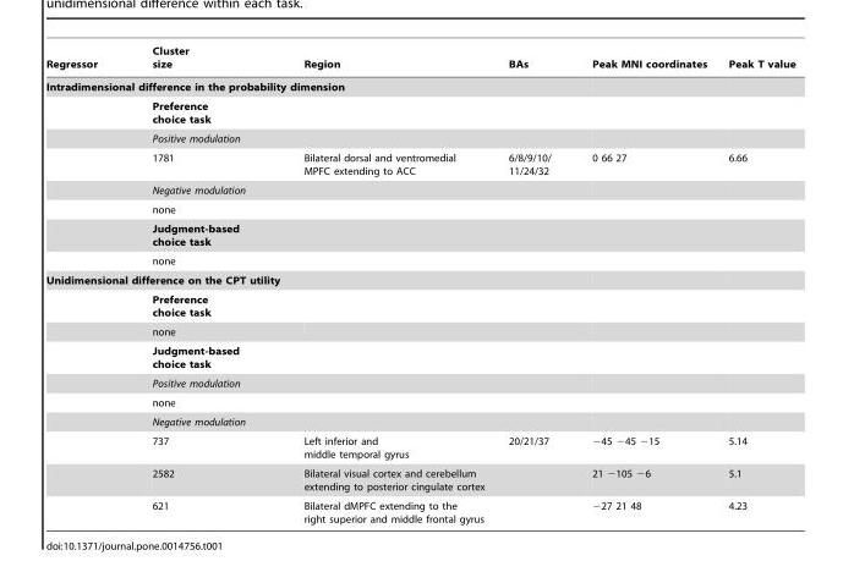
<table><thead><tr><td>Regressor</td><td>Cluster size</td><td>Region</td><td>BAs</td><td>Peak MNI coordinates</td><td>Peak T value</td></tr></thead><tbody><tr><td colspan="6">Intradimensional difference in the probability dimension</td></tr><tr><td></td><td colspan="5">Preference choice task</td></tr><tr><td></td><td colspan="2">Positive modulation</td><td></td><td></td><td></td></tr><tr><td></td><td>1781</td><td>Bilateral dorsal and ventromedial MPFC extending to ACC</td><td>6/8/9/10/ 11/24/32</td><td>0 66 27</td><td>6.66</td></tr><tr><td></td><td colspan="2">Negative modulation</td><td></td><td></td><td></td></tr><tr><td></td><td>none</td><td></td><td></td><td></td><td></td></tr><tr><td></td><td colspan="5">Judgment-based choice task</td></tr><tr><td></td><td>none</td><td></td><td></td><td></td><td></td></tr><tr><td colspan="6">Unidimensional difference on the CPT utility</td></tr><tr><td></td><td colspan="5">Preference choice task</td></tr><tr><td></td><td>none</td><td></td><td></td><td></td><td></td></tr><tr><td></td><td colspan="5">Judgment-based choice task</td></tr><tr><td></td><td colspan="2">Positive modulation</td><td></td><td></td><td></td></tr><tr><td></td><td>none</td><td></td><td></td><td></td><td></td></tr><tr><td></td><td colspan="2">Negative modulation</td><td></td><td></td><td></td></tr><tr><td></td><td>737</td><td>Left inferior and middle temporal gyrus</td><td>20/21/37</td><td>−45 −45 −15</td><td>5.14</td></tr><tr><td></td><td>2582</td><td>Bilateral visual cortex and cerebellum extending to posterior cingulate cortex</td><td></td><td>21 −105 −6</td><td>5.1</td></tr><tr><td></td><td>621</td><td>Bilateral dMPFC extending to the right superior and middle frontal gyrus</td><td></td><td>−27 21 48</td><td>4.23</td></tr></tbody></table>